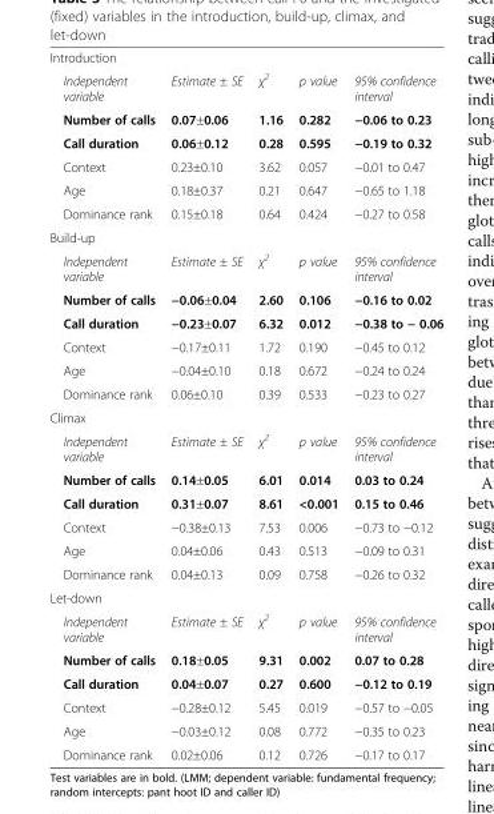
<table><tbody><tr><td colspan="5">Introduction</td></tr><tr><td>Independent variable</td><td>Estimate ± SE</td><td>χ<sup>2</sup></td><td>p value</td><td>95% confidence interval</td></tr><tr><td>Number of calls</td><td>0.07±0.06</td><td>1.16</td><td>0.282</td><td>−0.06 to 0.23</td></tr><tr><td>Call duration</td><td>0.06±0.12</td><td>0.28</td><td>0.595</td><td>−0.19 to 0.32</td></tr><tr><td>Context</td><td>0.23±0.10</td><td>3.62</td><td>0.057</td><td>−0.01 to 0.47</td></tr><tr><td>Age</td><td>0.18±0.37</td><td>0.21</td><td>0.647</td><td>−0.65 to 1.18</td></tr><tr><td>Dominance rank</td><td>0.15±0.18</td><td>0.64</td><td>0.424</td><td>−0.27 to 0.58</td></tr><tr><td colspan="5">Build-up</td></tr><tr><td>Independent variable</td><td>Estimate ± SE</td><td>χ<sup>2</sup></td><td>p value</td><td>95% confidence interval</td></tr><tr><td>Number of calls</td><td>−0.06±0.04</td><td>2.60</td><td>0.106</td><td>−0.16 to 0.02</td></tr><tr><td>Call duration</td><td>−0.23±0.07</td><td>6.32</td><td>0.012</td><td>−0.38 to − 0.06</td></tr><tr><td>Context</td><td>−0.17±0.11</td><td>1.72</td><td>0.190</td><td>−0.45 to 0.12</td></tr><tr><td>Age</td><td>−0.04±0.10</td><td>0.18</td><td>0.672</td><td>−0.24 to 0.24</td></tr><tr><td>Dominance rank</td><td>0.06±0.10</td><td>0.39</td><td>0.533</td><td>−0.23 to 0.27</td></tr><tr><td colspan="5">Climax</td></tr><tr><td>Independent variable</td><td>Estimate ± SE</td><td>χ<sup>2</sup></td><td>p value</td><td>95% confidence interval</td></tr><tr><td>Number of calls</td><td>0.14±0.05</td><td>6.01</td><td>0.014</td><td>0.03 to 0.24</td></tr><tr><td>Call duration</td><td>0.31±0.07</td><td>8.61</td><td>&lt;0.001</td><td>0.15 to 0.46</td></tr><tr><td>Context</td><td>−0.38±0.13</td><td>7.53</td><td>0.006</td><td>−0.73 to −0.12</td></tr><tr><td>Age</td><td>0.04±0.06</td><td>0.43</td><td>0.513</td><td>−0.09 to 0.31</td></tr><tr><td>Dominance rank</td><td>0.04±0.13</td><td>0.09</td><td>0.758</td><td>−0.26 to 0.32</td></tr><tr><td colspan="5">Let-down</td></tr><tr><td>Independent variable</td><td>Estimate ± SE</td><td>χ<sup>2</sup></td><td>p value</td><td>95% confidence interval</td></tr><tr><td>Number of calls</td><td>0.18±0.05</td><td>9.31</td><td>0.002</td><td>0.07 to 0.28</td></tr><tr><td>Call duration</td><td>0.04±0.07</td><td>0.27</td><td>0.600</td><td>−0.12 to 0.19</td></tr><tr><td>Context</td><td>−0.28±0.12</td><td>5.45</td><td>0.019</td><td>−0.57 to −0.05</td></tr><tr><td>Age</td><td>−0.03±0.12</td><td>0.08</td><td>0.772</td><td>−0.35 to 0.23</td></tr><tr><td>Dominance rank</td><td>0.02±0.06</td><td>0.12</td><td>0.726</td><td>−0.17 to 0.17</td></tr></tbody></table>